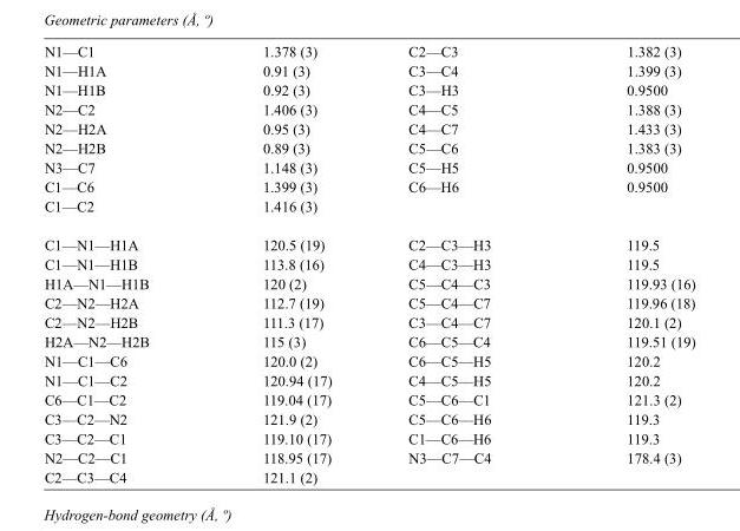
<table><tbody><tr><td>N1—C1</td><td>1.378 (3)</td><td>C2—C3</td><td>1.382 (3)</td></tr><tr><td>N1—H1A</td><td>0.91 (3)</td><td>C3—C4</td><td>1.399 (3)</td></tr><tr><td>N1—H1B</td><td>0.92 (3)</td><td>C3—H3</td><td>0.9500</td></tr><tr><td>N2—C2</td><td>1.406 (3)</td><td>C4—C5</td><td>1.388 (3)</td></tr><tr><td>N2—H2A</td><td>0.95 (3)</td><td>C4—C7</td><td>1.433 (3)</td></tr><tr><td>N2—H2B</td><td>0.89 (3)</td><td>C5—C6</td><td>1.383 (3)</td></tr><tr><td>N3—C7</td><td>1.148 (3)</td><td>C5—H5</td><td>0.9500</td></tr><tr><td>C1—C6</td><td>1.399 (3)</td><td>C6—H6</td><td>0.9500</td></tr><tr><td>C1—C2</td><td>1.416 (3)</td><td></td><td></td></tr><tr><td>C1—N1—H1A</td><td>120.5 (19)</td><td>C2—C3—H3</td><td>119.5</td></tr><tr><td>C1—N1—H1B</td><td>113.8 (16)</td><td>C4—C3—H3</td><td>119.5</td></tr><tr><td>H1A—N1—H1B</td><td>120 (2)</td><td>C5—C4—C3</td><td>119.93 (16)</td></tr><tr><td>C2—N2—H2A</td><td>112.7 (19)</td><td>C5—C4—C7</td><td>119.96 (18)</td></tr><tr><td>C2—N2—H2B</td><td>111.3 (17)</td><td>C3—C4—C7</td><td>120.1 (2)</td></tr><tr><td>H2A—N2—H2B</td><td>115 (3)</td><td>C6—C5—C4</td><td>119.51 (19)</td></tr><tr><td>N1—C1—C6</td><td>120.0 (2)</td><td>C6—C5—H5</td><td>120.2</td></tr><tr><td>N1—C1—C2</td><td>120.94 (17)</td><td>C4—C5—H5</td><td>120.2</td></tr><tr><td>C6—C1—C2</td><td>119.04 (17)</td><td>C5—C6—C1</td><td>121.3 (2)</td></tr><tr><td>C3—C2—N2</td><td>121.9 (2)</td><td>C5—C6—H6</td><td>119.3</td></tr><tr><td>C3—C2—C1</td><td>119.10 (17)</td><td>C1—C6—H6</td><td>119.3</td></tr><tr><td>N2—C2—C1</td><td>118.95 (17)</td><td>N3—C7—C4</td><td>178.4 (3)</td></tr><tr><td>C2—C3—C4</td><td>121.1 (2)</td><td></td><td></td></tr></tbody></table>